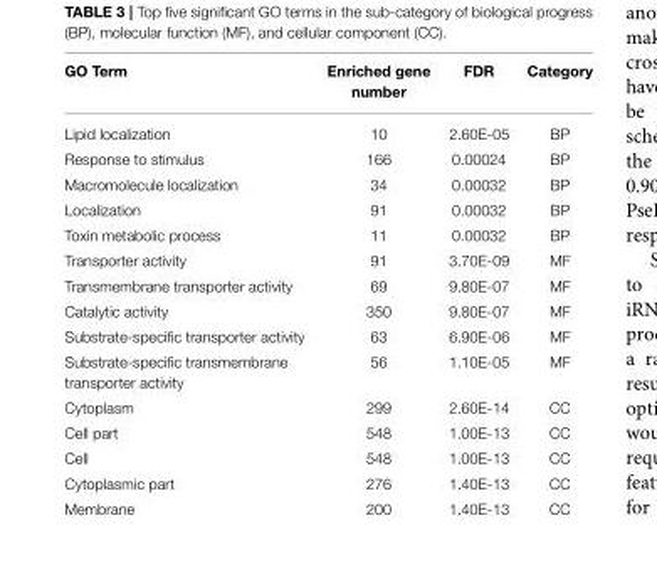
<table><thead><tr><td>GO Term</td><td>Enriched gene number</td><td>FDR</td><td>Category</td></tr></thead><tbody><tr><td>Lipid localization</td><td>10</td><td>2.60E-05</td><td>BP</td></tr><tr><td>Response to stimulus</td><td>166</td><td>0.00024</td><td>BP</td></tr><tr><td>Macromolecule localization</td><td>34</td><td>0.00032</td><td>BP</td></tr><tr><td>Localization</td><td>91</td><td>0.00032</td><td>BP</td></tr><tr><td>Toxin metabolic process</td><td>11</td><td>0.00032</td><td>BP</td></tr><tr><td>Transporter activity</td><td>91</td><td>3.70E-09</td><td>MF</td></tr><tr><td>Transmembrane transporter activity</td><td>69</td><td>9.80E-07</td><td>MF</td></tr><tr><td>Catalytic activity</td><td>350</td><td>9.80E-07</td><td>MF</td></tr><tr><td>Substrate-specific transporter activity</td><td>63</td><td>6.90E-06</td><td>MF</td></tr><tr><td>Substrate-specific transmembrane transporter activity</td><td>56</td><td>1.10E-05</td><td>MF</td></tr><tr><td>Cytoplasm</td><td>299</td><td>2.60E-14</td><td>CC</td></tr><tr><td>Cell part</td><td>548</td><td>1.00E-13</td><td>CC</td></tr><tr><td>Cell</td><td>548</td><td>1.00E-13</td><td>CC</td></tr><tr><td>Cytoplasmic part</td><td>276</td><td>1.40E-13</td><td>CC</td></tr><tr><td>Membrane</td><td>200</td><td>1.40E-13</td><td>CC</td></tr></tbody></table>